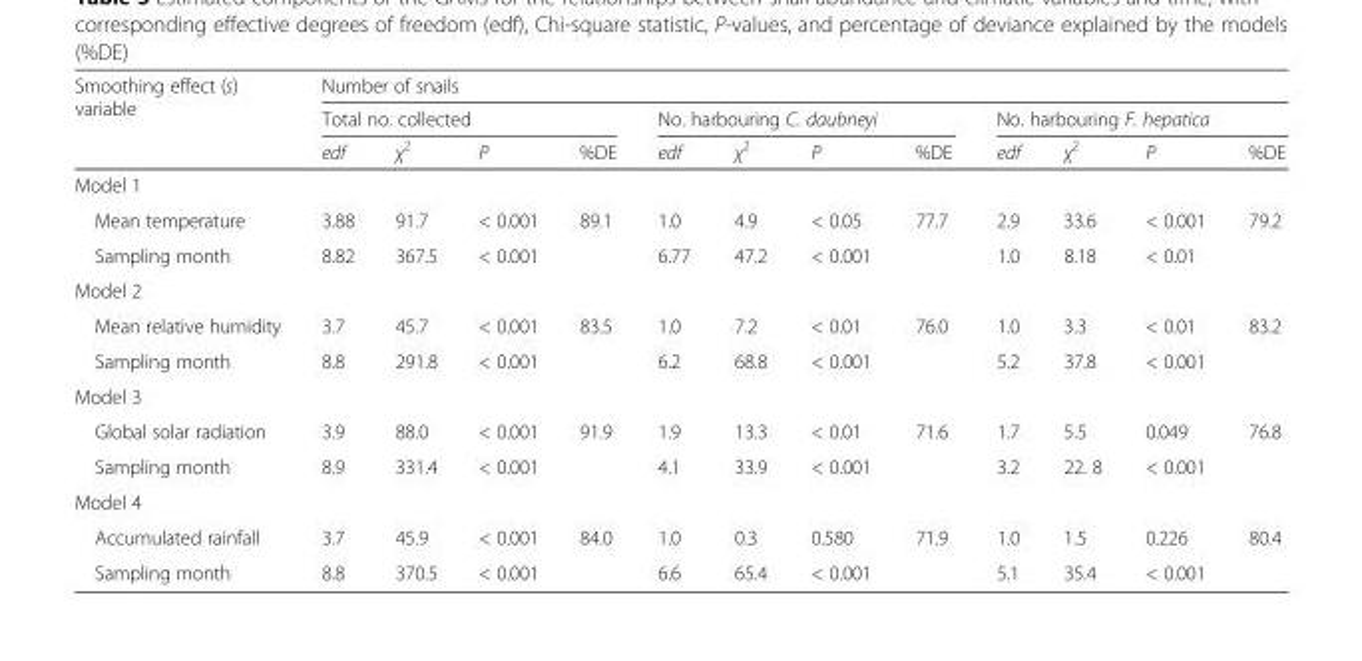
<table><thead><tr><td rowspan="3">Smoothing effect (s) variable</td><td colspan="12">Number of snails</td></tr><tr><td colspan="4">Total no. collected</td><td colspan="4">No. harbouring C. daubneyi</td><td colspan="4">No. harbouring F. hepatica</td></tr><tr><td>edf</td><td>χ<sup>2</sup></td><td>P</td><td>%DE</td><td>edf</td><td>χ<sup>2</sup></td><td>P</td><td>%DE</td><td>edf</td><td>χ<sup>2</sup></td><td>P</td><td>%DE</td></tr></thead><tbody><tr><td colspan="13">Model 1</td></tr><tr><td>Mean temperature</td><td>3.88</td><td>91.7</td><td>&lt; 0.001</td><td rowspan="2">89.1</td><td>1.0</td><td>4.9</td><td>&lt; 0.05</td><td rowspan="2">77.7</td><td>2.9</td><td>33.6</td><td>&lt; 0.001</td><td rowspan="2">79.2</td></tr><tr><td>Sampling month</td><td>8.82</td><td>367.5</td><td>&lt; 0.001</td><td>6.77</td><td>47.2</td><td>&lt; 0.001</td><td>1.0</td><td>8.18</td><td>&lt; 0.01</td></tr><tr><td colspan="13">Model 2</td></tr><tr><td>Mean relative humidity</td><td>3.7</td><td>45.7</td><td>&lt; 0.001</td><td rowspan="2">83.5</td><td>1.0</td><td>7.2</td><td>&lt; 0.01</td><td rowspan="2">76.0</td><td>1.0</td><td>3.3</td><td>&lt; 0.01</td><td rowspan="2">83.2</td></tr><tr><td>Sampling month</td><td>8.8</td><td>291.8</td><td>&lt; 0.001</td><td>6.2</td><td>68.8</td><td>&lt; 0.001</td><td>5.2</td><td>37.8</td><td>&lt; 0.001</td></tr><tr><td colspan="13">Model 3</td></tr><tr><td>Global solar radiation</td><td>3.9</td><td>88.0</td><td>&lt; 0.001</td><td rowspan="2">91.9</td><td>1.9</td><td>13.3</td><td>&lt; 0.01</td><td rowspan="2">71.6</td><td>1.7</td><td>5.5</td><td>0.049</td><td rowspan="2">76.8</td></tr><tr><td>Sampling month</td><td>8.9</td><td>331.4</td><td>&lt; 0.001</td><td>4.1</td><td>33.9</td><td>&lt; 0.001</td><td>3.2</td><td>22. 8</td><td>&lt; 0.001</td></tr><tr><td colspan="13">Model 4</td></tr><tr><td>Accumulated rainfall</td><td>3.7</td><td>45.9</td><td>&lt; 0.001</td><td rowspan="2">84.0</td><td>1.0</td><td>0.3</td><td>0.580</td><td rowspan="2">71.9</td><td>1.0</td><td>1.5</td><td>0.226</td><td rowspan="2">80.4</td></tr><tr><td>Sampling month</td><td>8.8</td><td>370.5</td><td>&lt; 0.001</td><td>6.6</td><td>65.4</td><td>&lt; 0.001</td><td>5.1</td><td>35.4</td><td>&lt; 0.001</td></tr></tbody></table>